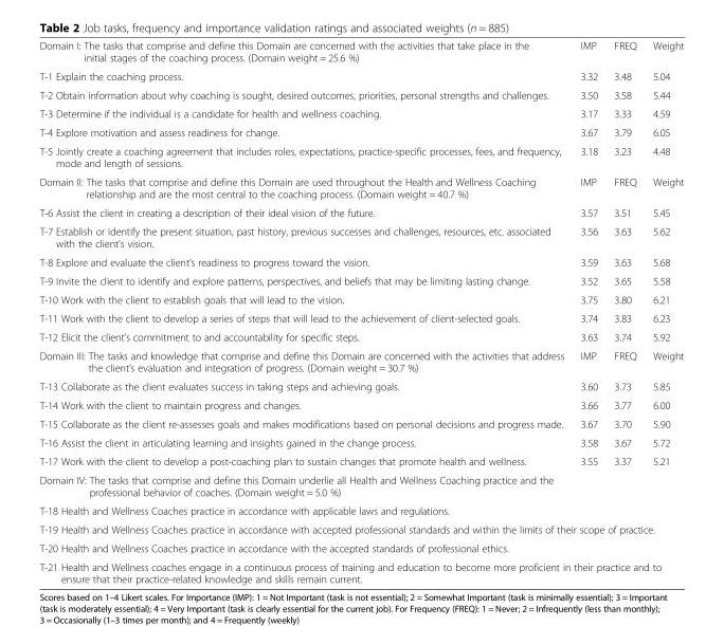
<table><tbody><tr><td>Domain I: The tasks that comprise and define this Domain are concerned with the activities that take place in the initial stages of the coaching process. (Domain weight = 25.6 %)</td><td>IMP</td><td>FREQ</td><td>Weight</td></tr><tr><td>T-1 Explain the coaching process.</td><td>3.32</td><td>3.48</td><td>5.04</td></tr><tr><td>T-2 Obtain information about why coaching is sought, desired outcomes, priorities, personal strengths and challenges.</td><td>3.50</td><td>3.58</td><td>5.44</td></tr><tr><td>T-3 Determine if the individual is a candidate for health and wellness coaching.</td><td>3.17</td><td>3.33</td><td>4.59</td></tr><tr><td>T-4 Explore motivation and assess readiness for change.</td><td>3.67</td><td>3.79</td><td>6.05</td></tr><tr><td>T-5 Jointly create a coaching agreement that includes roles, expectations, practice-specific processes, fees, and frequency, mode and length of sessions.</td><td>3.18</td><td>3.23</td><td>4.48</td></tr><tr><td>Domain II: The tasks that comprise and define this Domain are used throughout the Health and Wellness Coaching relationship and are the most central to the coaching process. (Domain weight = 40.7 %)</td><td>IMP</td><td>FREQ</td><td>Weight</td></tr><tr><td>T-6 Assist the client in creating a description of their ideal vision of the future.</td><td>3.57</td><td>3.51</td><td>5.45</td></tr><tr><td>T-7 Establish or identify the present situation, past history, previous successes and challenges, resources, etc. associated with the client’s vision.</td><td>3.56</td><td>3.63</td><td>5.62</td></tr><tr><td>T-8 Explore and evaluate the client’s readiness to progress toward the vision.</td><td>3.59</td><td>3.63</td><td>5.68</td></tr><tr><td>T-9 Invite the client to identify and explore patterns, perspectives, and beliefs that may be limiting lasting change.</td><td>3.52</td><td>3.65</td><td>5.58</td></tr><tr><td>T-10 Work with the client to establish goals that will lead to the vision.</td><td>3.75</td><td>3.80</td><td>6.21</td></tr><tr><td>T-11 Work with the client to develop a series of steps that will lead to the achievement of client-selected goals.</td><td>3.74</td><td>3.83</td><td>6.23</td></tr><tr><td>T-12 Elicit the client’s commitment to and accountability for specific steps.</td><td>3.63</td><td>3.74</td><td>5.92</td></tr><tr><td>Domain III: The tasks and knowledge that comprise and define this Domain are concerned with the activities that address the client’s evaluation and integration of progress. (Domain weight = 30.7 %)</td><td>IMP</td><td>FREQ</td><td>Weight</td></tr><tr><td>T-13 Collaborate as the client evaluates success in taking steps and achieving goals.</td><td>3.60</td><td>3.73</td><td>5.85</td></tr><tr><td>T-14 Work with the client to maintain progress and changes.</td><td>3.66</td><td>3.77</td><td>6.00</td></tr><tr><td>T-15 Collaborate as the client re-assesses goals and makes modifications based on personal decisions and progress made.</td><td>3.67</td><td>3.70</td><td>5.90</td></tr><tr><td>T-16 Assist the client in articulating learning and insights gained in the change process.</td><td>3.58</td><td>3.67</td><td>5.72</td></tr><tr><td>T-17 Work with the client to develop a post-coaching plan to sustain changes that promote health and wellness.</td><td>3.55</td><td>3.37</td><td>5.21</td></tr><tr><td colspan="4">Domain IV: The tasks that comprise and define this Domain underlie all Health and Wellness Coaching practice and the professional behavior of coaches. (Domain weight = 5.0 %)</td></tr><tr><td colspan="4">T-18 Health and Wellness Coaches practice in accordance with applicable laws and regulations.</td></tr><tr><td colspan="4">T-19 Health and Wellness Coaches practice in accordance with accepted professional standards and within the limits of their scope of practice.</td></tr><tr><td colspan="4">T-20 Health and Wellness Coaches practice in accordance with the accepted standards of professional ethics.</td></tr><tr><td colspan="4">T-21 Health and Wellness coaches engage in a continuous process of training and education to become more proficient in their practice and to ensure that their practice-related knowledge and skills remain current.</td></tr></tbody></table>